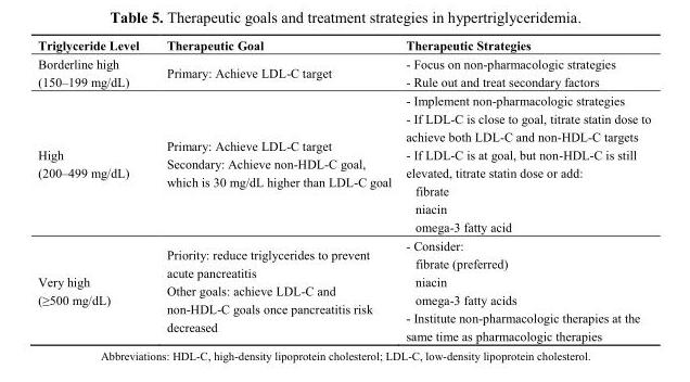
<table><thead><tr><td>Triglyceride Level</td><td>Therapeutic Goal</td><td>Therapeutic Strategies</td></tr></thead><tbody><tr><td>Borderline high (150–199 mg/dL)</td><td>Primary: Achieve LDL-C target</td><td>- Focus on non-pharmacologic strategies - Rule out and treat secondary factors</td></tr><tr><td>High (200–499 mg/dL)</td><td>Primary: Achieve LDL-C target Secondary: Achieve non-HDL-C goal, which is 30 mg/dL higher than LDL-C goal</td><td>- Implement non-pharmacologic strategies - If LDL-C is close to goal, titrate statin dose to achieve both LDL-C and non-HDL-C targets - If LDL-C is at goal, but non-HDL-C is still elevated, titrate statin dose or add: fibrate niacin omega-3 fatty acid</td></tr><tr><td>Very high (≥500 mg/dL)</td><td>Priority: reduce triglycerides to prevent acute pancreatitis Other goals: achieve LDL-C and non-HDL-C goals once pancreatitis risk decreased</td><td>- Consider: fibrate (preferred) niacin omega-3 fatty acids - Institute non-pharmacologic therapies at the same time as pharmacologic therapies</td></tr></tbody></table>